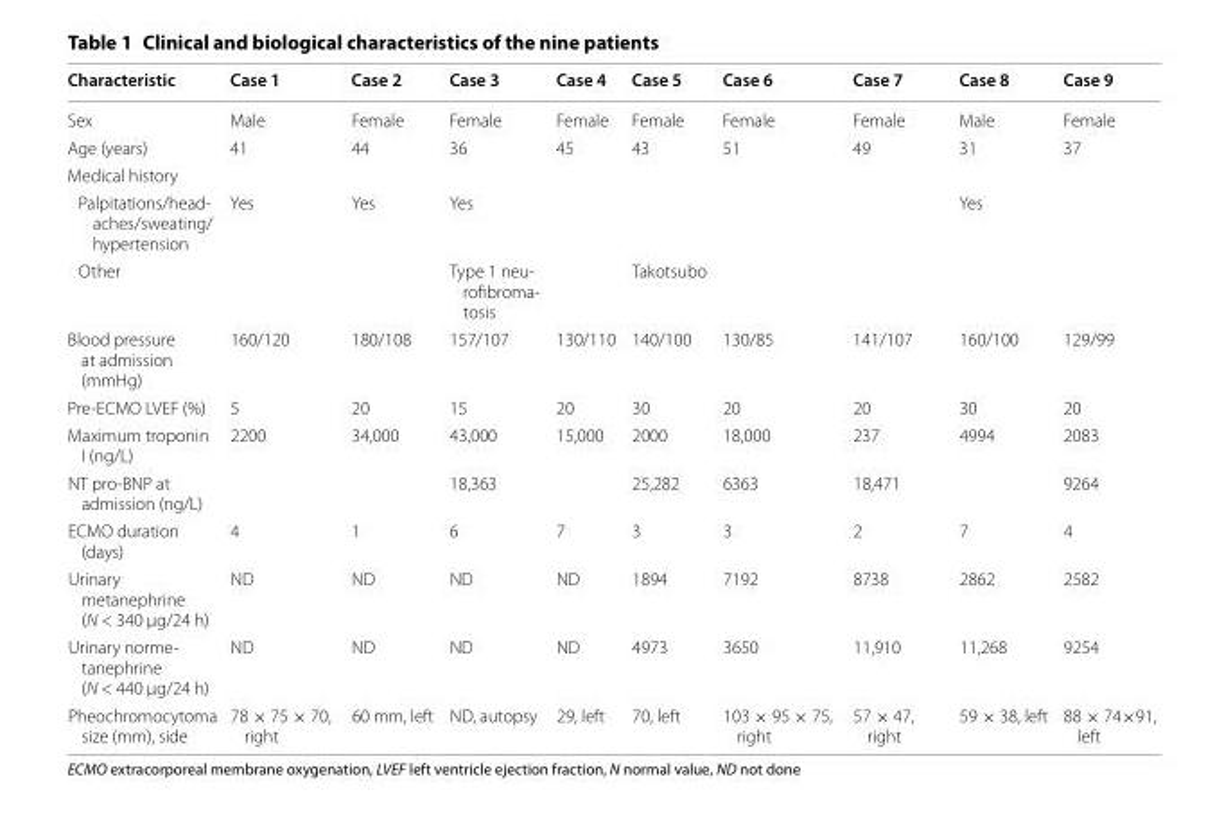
<table><thead><tr><td>Characteristic</td><td>Case 1</td><td>Case 2</td><td>Case 3</td><td>Case 4</td><td>Case 5</td><td>Case 6</td><td>Case 7</td><td>Case 8</td><td>Case 9</td></tr></thead><tbody><tr><td>Sex</td><td>Male</td><td>Female</td><td>Female</td><td>Female</td><td>Female</td><td>Female</td><td>Female</td><td>Male</td><td>Female</td></tr><tr><td>Age (years)</td><td>41</td><td>44</td><td>36</td><td>45</td><td>43</td><td>51</td><td>49</td><td>31</td><td>37</td></tr><tr><td colspan="10">Medical history</td></tr><tr><td>Palpitations/head‑ aches/sweating/ hypertension</td><td>Yes</td><td>Yes</td><td>Yes</td><td></td><td></td><td></td><td></td><td>Yes</td><td></td></tr><tr><td>Other</td><td></td><td></td><td>Type 1 neu‑ rofibroma‑ tosis</td><td></td><td>Takotsubo</td><td></td><td></td><td></td><td></td></tr><tr><td>Blood pressure at admission (mmHg)</td><td>160/120</td><td>180/108</td><td>157/107</td><td>130/110</td><td>140/100</td><td>130/85</td><td>141/107</td><td>160/100</td><td>129/99</td></tr><tr><td>Pre‑ECMO LVEF (%)</td><td>5</td><td>20</td><td>15</td><td>20</td><td>30</td><td>20</td><td>20</td><td>30</td><td>20</td></tr><tr><td>Maximum troponin I (ng/L)</td><td>2200</td><td>34,000</td><td>43,000</td><td>15,000</td><td>2000</td><td>18,000</td><td>237</td><td>4994</td><td>2083</td></tr><tr><td>NT pro‑BNP at admission (ng/L)</td><td></td><td></td><td>18,363</td><td></td><td>25,282</td><td>6363</td><td>18,471</td><td></td><td>9264</td></tr><tr><td>ECMO duration (days)</td><td>4</td><td>1</td><td>6</td><td>7</td><td>3</td><td>3</td><td>2</td><td>7</td><td>4</td></tr><tr><td>Urinary metanephrine (N &lt; 340 µg/24 h)</td><td>ND</td><td>ND</td><td>ND</td><td>ND</td><td>1894</td><td>7192</td><td>8738</td><td>2862</td><td>2582</td></tr><tr><td>Urinary norme‑ tanephrine (N &lt; 440 µg/24 h)</td><td>ND</td><td>ND</td><td>ND</td><td>ND</td><td>4973</td><td>3650</td><td>11,910</td><td>11,268</td><td>9254</td></tr><tr><td>Pheochromocytoma size (mm), side</td><td>78 × 75 × 70, right</td><td>60 mm, left</td><td>ND, autopsy</td><td>29, left</td><td>70, left</td><td>103 × 95 × 75, right</td><td>57 × 47, right</td><td>59 × 38, left</td><td>88 × 74×91, left</td></tr></tbody></table>